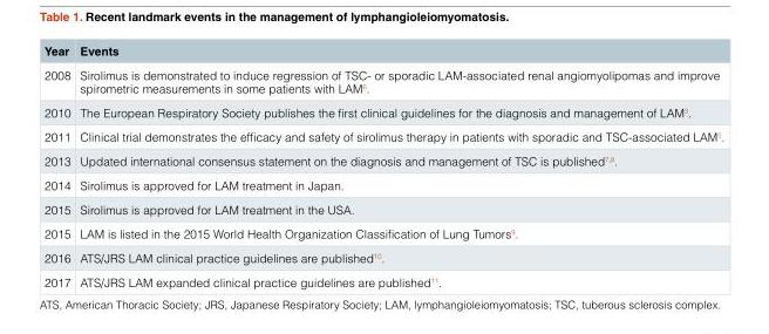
<table><thead><tr><td>Year</td><td>Events</td></tr></thead><tbody><tr><td>2008</td><td>Sirolimus is demonstrated to induce regression of TSC- or sporadic LAM-associated renal angiomyolipomas and improve spirometric measurements in some patients with LAM<sup>6</sup>.</td></tr><tr><td>2010</td><td>The European Respiratory Society publishes the first clinical guidelines for the diagnosis and management of LAM<sup>3</sup>.</td></tr><tr><td>2011</td><td>Clinical trial demonstrates the efficacy and safety of sirolimus therapy in patients with sporadic and TSC-associated LAM<sup>5</sup>.</td></tr><tr><td>2013</td><td>Updated international consensus statement on the diagnosis and management of TSC is published<sup>7,8</sup>.</td></tr><tr><td>2014</td><td>Sirolimus is approved for LAM treatment in Japan.</td></tr><tr><td>2015</td><td>Sirolimus is approved for LAM treatment in the USA.</td></tr><tr><td>2015</td><td>LAM is listed in the 2015 World Health Organization Classification of Lung Tumors<sup>9</sup>.</td></tr><tr><td>2016</td><td>ATS/JRS LAM clinical practice guidelines are published<sup>10</sup>.</td></tr><tr><td>2017</td><td>ATS/JRS LAM expanded clinical practice guidelines are published<sup>11</sup>.</td></tr></tbody></table>